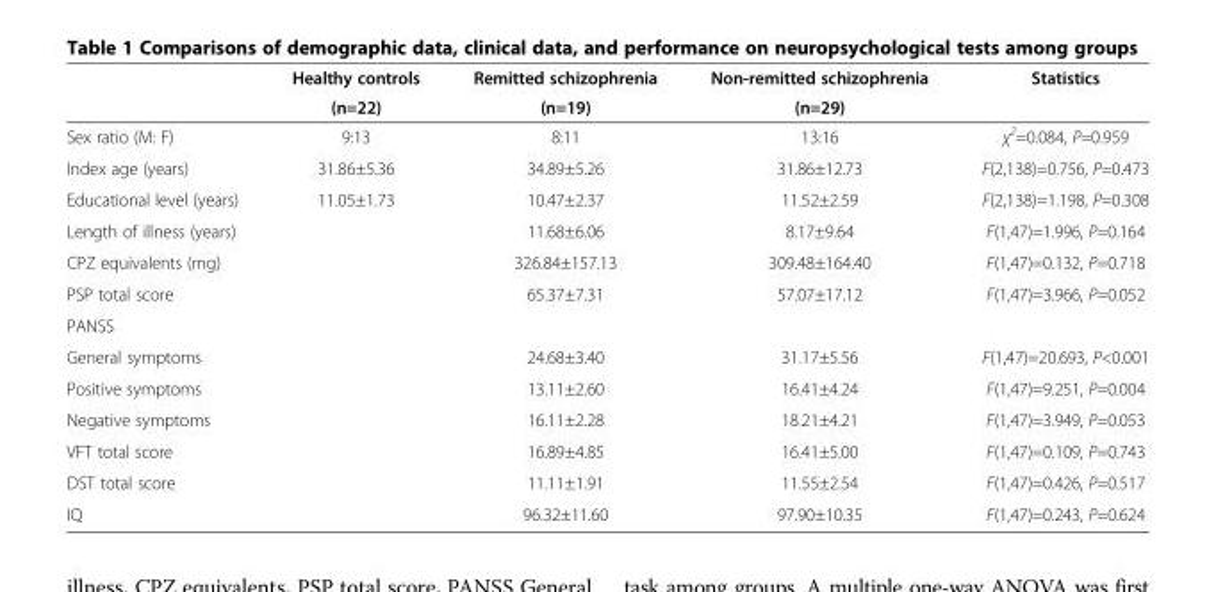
<table><thead><tr><td rowspan="2"></td><td rowspan="2">Healthy controls (n=22)</td><td rowspan="2">Remitted schizophrenia (n=19)</td><td rowspan="2">Non-remitted schizophrenia (n=29)</td><td rowspan="2">Statistics</td></tr><tr></tr></thead><tbody><tr><td>Sex ratio (M: F)</td><td>9:13</td><td>8:11</td><td>13:16</td><td>χ<sup>2</sup>=0.084, P=0.959</td></tr><tr><td>Index age (years)</td><td>31.86±5.36</td><td>34.89±5.26</td><td>31.86±12.73</td><td>F(2,138)=0.756, P=0.473</td></tr><tr><td>Educational level (years)</td><td>11.05±1.73</td><td>10.47±2.37</td><td>11.52±2.59</td><td>F(2,138)=1.198, P=0.308</td></tr><tr><td>Length of illness (years)</td><td></td><td>11.68±6.06</td><td>8.17±9.64</td><td>F(1,47)=1.996, P=0.164</td></tr><tr><td>CPZ equivalents (mg)</td><td></td><td>326.84±157.13</td><td>309.48±164.40</td><td>F(1,47)=0.132, P=0.718</td></tr><tr><td>PSP total score</td><td></td><td>65.37±7.31</td><td>57.07±17.12</td><td>F(1,47)=3.966, P=0.052</td></tr><tr><td colspan="5">PANSS</td></tr><tr><td>General symptoms</td><td></td><td>24.68±3.40</td><td>31.17±5.56</td><td>F(1,47)=20.693, P&lt;0.001</td></tr><tr><td>Positive symptoms</td><td></td><td>13.11±2.60</td><td>16.41±4.24</td><td>F(1,47)=9.251, P=0.004</td></tr><tr><td>Negative symptoms</td><td></td><td>16.11±2.28</td><td>18.21±4.21</td><td>F(1,47)=3.949, P=0.053</td></tr><tr><td>VFT total score</td><td></td><td>16.89±4.85</td><td>16.41±5.00</td><td>F(1,47)=0.109, P=0.743</td></tr><tr><td>DST total score</td><td></td><td>11.11±1.91</td><td>11.55±2.54</td><td>F(1,47)=0.426, P=0.517</td></tr><tr><td>IQ</td><td></td><td>96.32±11.60</td><td>97.90±10.35</td><td>F(1,47)=0.243, P=0.624</td></tr></tbody></table>